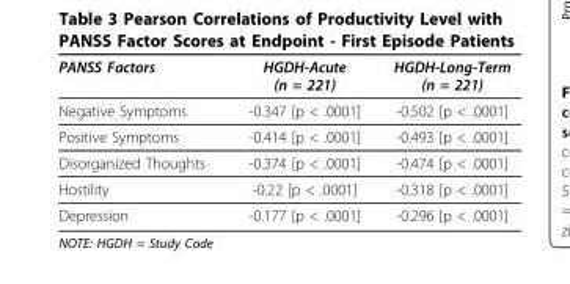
<table><thead><tr><td>PANSS Factors</td><td>HGDH-Acute (n = 221)</td><td>HGDH-Long-Term (n = 221)</td></tr></thead><tbody><tr><td>Negative Symptoms</td><td>-0.347 [p &lt; .0001]</td><td>-0.502 [p &lt; .0001]</td></tr><tr><td>Positive Symptoms</td><td>-0.414 [p &lt; .0001]</td><td>-0.493 [p &lt; .0001]</td></tr><tr><td>Disorganized Thoughts</td><td>-0.374 [p &lt; .0001]</td><td>-0.474 [p &lt; .0001]</td></tr><tr><td>Hostility</td><td>-0.22 [p &lt; .0001]</td><td>-0.318 [p &lt; .0001]</td></tr><tr><td>Depression</td><td>-0.177 [p &lt; .0001]</td><td>-0.296 [p &lt; .0001]</td></tr></tbody></table>